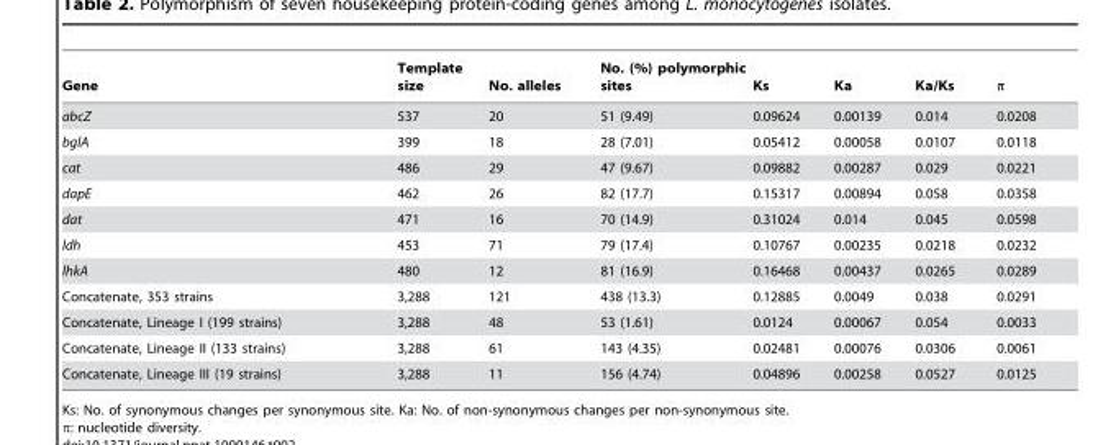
<table><thead><tr><td>Gene</td><td>Template size</td><td>No. alleles</td><td>No. (%) polymorphic sites</td><td>Ks</td><td>Ka</td><td>Ka/Ks</td><td>π</td></tr></thead><tbody><tr><td>abcZ</td><td>537</td><td>20</td><td>51 (9.49)</td><td>0.09624</td><td>0.00139</td><td>0.014</td><td>0.0208</td></tr><tr><td>bglA</td><td>399</td><td>18</td><td>28 (7.01)</td><td>0.05412</td><td>0.00058</td><td>0.0107</td><td>0.0118</td></tr><tr><td>cat</td><td>486</td><td>29</td><td>47 (9.67)</td><td>0.09882</td><td>0.00287</td><td>0.029</td><td>0.0221</td></tr><tr><td>dapE</td><td>462</td><td>26</td><td>82 (17.7)</td><td>0.15317</td><td>0.00894</td><td>0.058</td><td>0.0358</td></tr><tr><td>dat</td><td>471</td><td>16</td><td>70 (14.9)</td><td>0.31024</td><td>0.014</td><td>0.045</td><td>0.0598</td></tr><tr><td>ldh</td><td>453</td><td>71</td><td>79 (17.4)</td><td>0.10767</td><td>0.00235</td><td>0.0218</td><td>0.0232</td></tr><tr><td>lhkA</td><td>480</td><td>12</td><td>81 (16.9)</td><td>0.16468</td><td>0.00437</td><td>0.0265</td><td>0.0289</td></tr><tr><td>Concatenate, 353 strains</td><td>3,288</td><td>121</td><td>438 (13.3)</td><td>0.12885</td><td>0.0049</td><td>0.038</td><td>0.0291</td></tr><tr><td>Concatenate, Lineage I (199 strains)</td><td>3,288</td><td>48</td><td>53 (1.61)</td><td>0.0124</td><td>0.00067</td><td>0.054</td><td>0.0033</td></tr><tr><td>Concatenate, Lineage II (133 strains)</td><td>3,288</td><td>61</td><td>143 (4.35)</td><td>0.02481</td><td>0.00076</td><td>0.0306</td><td>0.0061</td></tr><tr><td>Concatenate, Lineage III (19 strains)</td><td>3,288</td><td>11</td><td>156 (4.74)</td><td>0.04896</td><td>0.00258</td><td>0.0527</td><td>0.0125</td></tr></tbody></table>